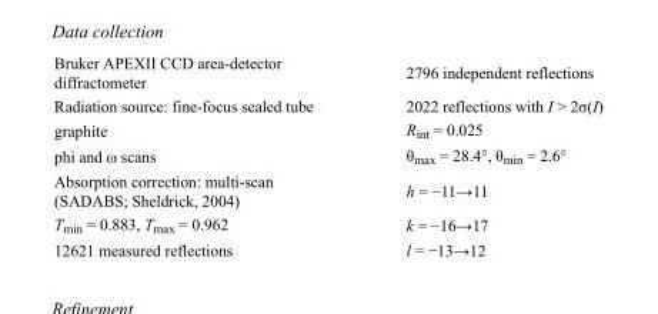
<table><tbody><tr><td>Bruker APEXII CCD area-detector diffractometer</td><td>2796 independent reflections</td></tr><tr><td>Radiation source: fine-focus sealed tube</td><td>2022 reflections with I &gt; 2σ(I)</td></tr><tr><td>graphite</td><td>R<sub>int</sub> = 0.025</td></tr><tr><td>phi and ω scans</td><td>θ<sub>max</sub> = 28.4°, θ<sub>min</sub> = 2.6°</td></tr><tr><td>Absorption correction: multi-scan (SADABS; Sheldrick, 2004)</td><td>h = −11→11</td></tr><tr><td>T<sub>min</sub> = 0.883, T<sub>max</sub> = 0.962</td><td>k = −16→17</td></tr><tr><td>12621 measured reflections</td><td>l = −13→12</td></tr></tbody></table>